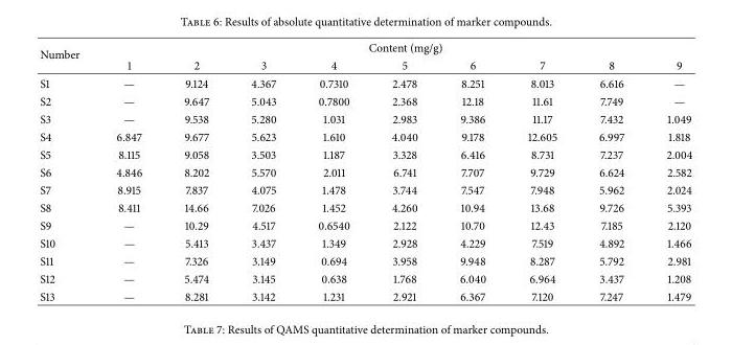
<table><thead><tr><td rowspan="2">Number</td><td colspan="9">Content (mg/g)</td></tr><tr><td>1</td><td>2</td><td>3</td><td>4</td><td>5</td><td>6</td><td>7</td><td>8</td><td>9</td></tr></thead><tbody><tr><td>S1</td><td>—</td><td>9.124</td><td>4.367</td><td>0.7310</td><td>2.478</td><td>8.251</td><td>8.013</td><td>6.616</td><td>—</td></tr><tr><td>S2</td><td>—</td><td>9.647</td><td>5.043</td><td>0.7800</td><td>2.368</td><td>12.18</td><td>11.61</td><td>7.749</td><td>—</td></tr><tr><td>S3</td><td>—</td><td>9.538</td><td>5.280</td><td>1.031</td><td>2.983</td><td>9.386</td><td>11.17</td><td>7.432</td><td>1.049</td></tr><tr><td>S4</td><td>6.847</td><td>9.677</td><td>5.623</td><td>1.610</td><td>4.040</td><td>9.178</td><td>12.605</td><td>6.997</td><td>1.818</td></tr><tr><td>S5</td><td>8.115</td><td>9.058</td><td>3.503</td><td>1.187</td><td>3.328</td><td>6.416</td><td>8.731</td><td>7.237</td><td>2.004</td></tr><tr><td>S6</td><td>4.846</td><td>8.202</td><td>5.570</td><td>2.011</td><td>6.741</td><td>7.707</td><td>9.729</td><td>6.624</td><td>2.582</td></tr><tr><td>S7</td><td>8.915</td><td>7.837</td><td>4.075</td><td>1.478</td><td>3.744</td><td>7.547</td><td>7.948</td><td>5.962</td><td>2.024</td></tr><tr><td>S8</td><td>8.411</td><td>14.66</td><td>7.026</td><td>1.452</td><td>4.260</td><td>10.94</td><td>13.68</td><td>9.726</td><td>5.393</td></tr><tr><td>S9</td><td>—</td><td>10.29</td><td>4.517</td><td>0.6540</td><td>2.122</td><td>10.70</td><td>12.43</td><td>7.185</td><td>2.120</td></tr><tr><td>S10</td><td>—</td><td>5.413</td><td>3.437</td><td>1.349</td><td>2.928</td><td>4.229</td><td>7.519</td><td>4.892</td><td>1.466</td></tr><tr><td>S11</td><td>—</td><td>7.326</td><td>3.149</td><td>0.694</td><td>3.958</td><td>9.948</td><td>8.287</td><td>5.792</td><td>2.981</td></tr><tr><td>S12</td><td>—</td><td>5.474</td><td>3.145</td><td>0.638</td><td>1.768</td><td>6.040</td><td>6.964</td><td>3.437</td><td>1.208</td></tr><tr><td>S13</td><td>—</td><td>8.281</td><td>3.142</td><td>1.231</td><td>2.921</td><td>6.367</td><td>7.120</td><td>7.247</td><td>1.479</td></tr></tbody></table>